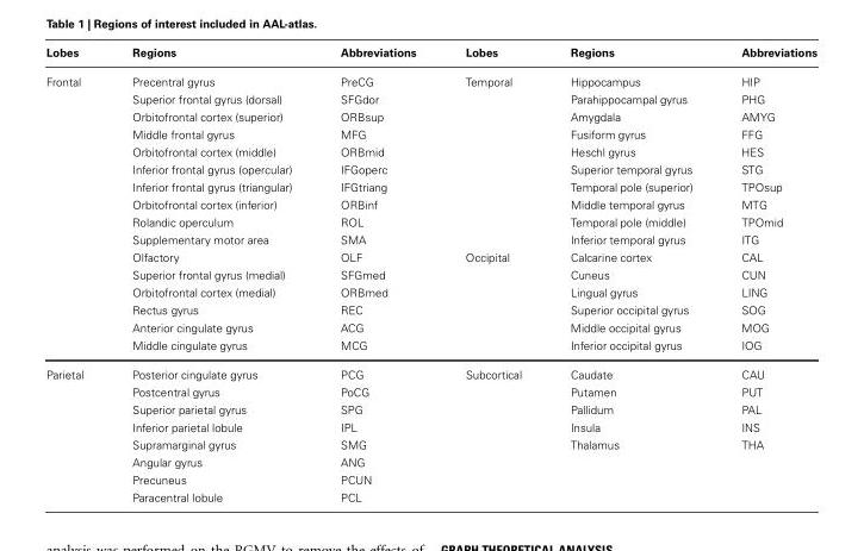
<table><thead><tr><td>Lobes</td><td>Regions</td><td>Abbreviations</td><td>Lobes</td><td>Regions</td><td>Abbreviations</td></tr></thead><tbody><tr><td rowspan="16">Frontal</td><td>Precentral gyrus</td><td>PreCG</td><td>Temporal</td><td>Hippocampus</td><td>HIP</td></tr><tr><td>Superior frontal gyrus (dorsal)</td><td>SFGdor</td><td></td><td>Parahippocampal gyrus</td><td>PHG</td></tr><tr><td>Orbitofrontal cortex (superior)</td><td>ORBsup</td><td></td><td>Amygdala</td><td>AMYG</td></tr><tr><td>Middle frontal gyrus</td><td>MFG</td><td></td><td>Fusiform gyrus</td><td>FFG</td></tr><tr><td>Orbitofrontal cortex (middle)</td><td>ORBmid</td><td></td><td>Heschl gyrus</td><td>HES</td></tr><tr><td>Inferior frontal gyrus (opercular)</td><td>IFGoperc</td><td></td><td>Superior temporal gyrus</td><td>STG</td></tr><tr><td>Inferior frontal gyrus (triangular)</td><td>IFGtriang</td><td></td><td>Temporal pole (superior)</td><td>TPOsup</td></tr><tr><td>Orbitofrontal cortex (inferior)</td><td>ORBinf</td><td></td><td>Middle temporal gyrus</td><td>MTG</td></tr><tr><td>Rolandic operculum</td><td>ROL</td><td></td><td>Temporal pole (middle)</td><td>TPOmid</td></tr><tr><td>Supplementary motor area</td><td>SMA</td><td></td><td>Inferior temporal gyrus</td><td>ITG</td></tr><tr><td>Olfactory</td><td>OLF</td><td>Occipital</td><td>Calcarine cortex</td><td>CAL</td></tr><tr><td>Superior frontal gyrus (medial)</td><td>SFGmed</td><td></td><td>Cuneus</td><td>CUN</td></tr><tr><td>Orbitofrontal cortex (medial)</td><td>ORBmed</td><td></td><td>Lingual gyrus</td><td>LING</td></tr><tr><td>Rectus gyrus</td><td>REC</td><td></td><td>Superior occipital gyrus</td><td>SOG</td></tr><tr><td>Anterior cingulate gyrus</td><td>ACG</td><td></td><td>Middle occipital gyrus</td><td>MOG</td></tr><tr><td>Middle cingulate gyrus</td><td>MCG</td><td></td><td>Inferior occipital gyrus</td><td>IOG</td></tr><tr><td rowspan="8">Parietal</td><td>Posterior cingulate gyrus</td><td>PCG</td><td>Subcortical</td><td>Caudate</td><td>CAU</td></tr><tr><td>Postcentral gyrus</td><td>PoCG</td><td></td><td>Putamen</td><td>PUT</td></tr><tr><td>Superior parietal gyrus</td><td>SPG</td><td></td><td>Pallidum</td><td>PAL</td></tr><tr><td>Inferior parietal lobule</td><td>IPL</td><td></td><td>Insula</td><td>INS</td></tr><tr><td>Supramarginal gyrus</td><td>SMG</td><td></td><td>Thalamus</td><td>THA</td></tr><tr><td>Angular gyrus</td><td>ANG</td><td></td><td></td><td></td></tr><tr><td>Precuneus</td><td>PCUN</td><td></td><td></td><td></td></tr><tr><td>Paracentral lobule</td><td>PCL</td><td></td><td></td><td></td></tr></tbody></table>